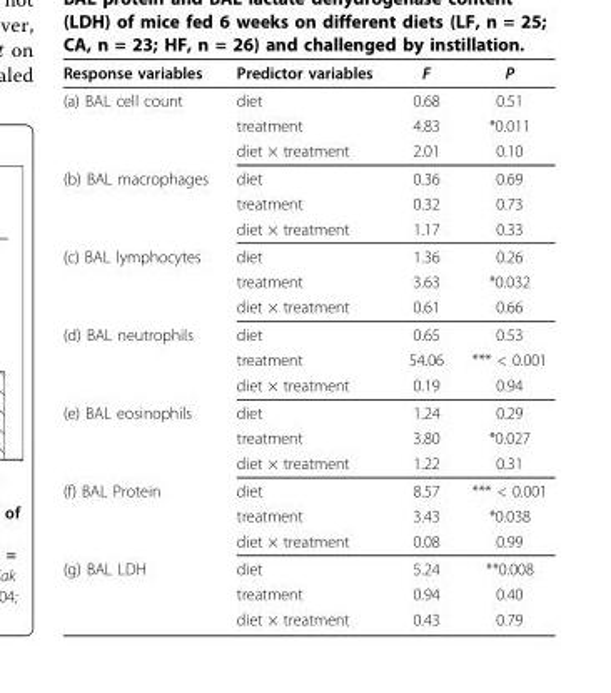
<table><thead><tr><td>Response variables</td><td>Predictor variables</td><td>F</td><td>P</td></tr></thead><tbody><tr><td rowspan="3">(a) BAL cell count</td><td>diet</td><td>0.68</td><td>0.51</td></tr><tr><td>treatment</td><td>4.83</td><td>*0.011</td></tr><tr><td>diet × treatment</td><td>2.01</td><td>0.10</td></tr><tr><td rowspan="3">(b) BAL macrophages</td><td>diet</td><td>0.36</td><td>0.69</td></tr><tr><td>treatment</td><td>0.32</td><td>0.73</td></tr><tr><td>diet × treatment</td><td>1.17</td><td>0.33</td></tr><tr><td rowspan="3">(c) BAL lymphocytes</td><td>diet</td><td>1.36</td><td>0.26</td></tr><tr><td>treatment</td><td>3.63</td><td>*0.032</td></tr><tr><td>diet × treatment</td><td>0.61</td><td>0.66</td></tr><tr><td rowspan="3">(d) BAL neutrophils</td><td>diet</td><td>0.65</td><td>0.53</td></tr><tr><td>treatment</td><td>54.06</td><td>*** &lt; 0.001</td></tr><tr><td>diet × treatment</td><td>0.19</td><td>0.94</td></tr><tr><td rowspan="3">(e) BAL eosinophils</td><td>diet</td><td>1.24</td><td>0.29</td></tr><tr><td>treatment</td><td>3.80</td><td>*0.027</td></tr><tr><td>diet × treatment</td><td>1.22</td><td>0.31</td></tr><tr><td rowspan="3">(f) BAL Protein</td><td>diet</td><td>8.57</td><td>*** &lt; 0.001</td></tr><tr><td>treatment</td><td>3.43</td><td>*0.038</td></tr><tr><td>diet × treatment</td><td>0.08</td><td>0.99</td></tr><tr><td rowspan="3">(g) BAL LDH</td><td>diet</td><td>5.24</td><td>**0.008</td></tr><tr><td>treatment</td><td>0.94</td><td>0.40</td></tr><tr><td>diet × treatment</td><td>0.43</td><td>0.79</td></tr></tbody></table>